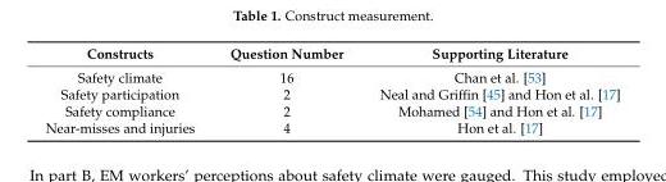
<table><thead><tr><td>Constructs</td><td>Question Number</td><td>Supporting Literature</td></tr></thead><tbody><tr><td>Safety climate</td><td>16</td><td>Chan et al. [53]</td></tr><tr><td>Safety participation</td><td>2</td><td>Neal and Griffin [45] and Hon et al. [17]</td></tr><tr><td>Safety compliance</td><td>2</td><td>Mohamed [54] and Hon et al. [17]</td></tr><tr><td>Near-misses and injuries</td><td>4</td><td>Hon et al. [17]</td></tr></tbody></table>